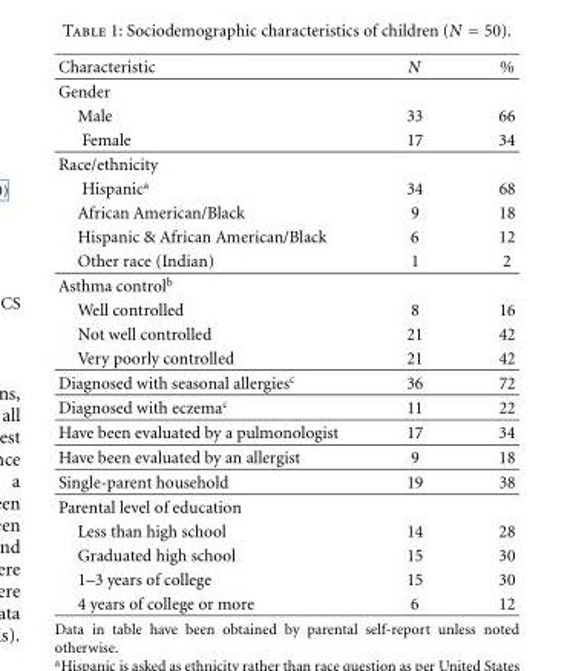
<table><thead><tr><td>Characteristic</td><td>N</td><td>%</td></tr></thead><tbody><tr><td colspan="3">Gender</td></tr><tr><td>Male</td><td>33</td><td>66</td></tr><tr><td>Female</td><td>17</td><td>34</td></tr><tr><td colspan="3">Race/ethnicity</td></tr><tr><td>Hispanic<sup>a</sup></td><td>34</td><td>68</td></tr><tr><td>African American/Black</td><td>9</td><td>18</td></tr><tr><td>Hispanic &amp; African American/Black</td><td>6</td><td>12</td></tr><tr><td>Other race (Indian)</td><td>1</td><td>2</td></tr><tr><td colspan="3">Asthma control<sup>b</sup></td></tr><tr><td>Well controlled</td><td>8</td><td>16</td></tr><tr><td>Not well controlled</td><td>21</td><td>42</td></tr><tr><td>Very poorly controlled</td><td>21</td><td>42</td></tr><tr><td>Diagnosed with seasonal allergies<sup>c</sup></td><td>36</td><td>72</td></tr><tr><td>Diagnosed with eczema<sup>c</sup></td><td>11</td><td>22</td></tr><tr><td>Have been evaluated by a pulmonologist</td><td>17</td><td>34</td></tr><tr><td>Have been evaluated by an allergist</td><td>9</td><td>18</td></tr><tr><td>Single-parent household</td><td>19</td><td>38</td></tr><tr><td colspan="3">Parental level of education</td></tr><tr><td>Less than high school</td><td>14</td><td>28</td></tr><tr><td>Graduated high school</td><td>15</td><td>30</td></tr><tr><td>1–3 years of college</td><td>15</td><td>30</td></tr><tr><td>4 years of college or more</td><td>6</td><td>12</td></tr></tbody></table>